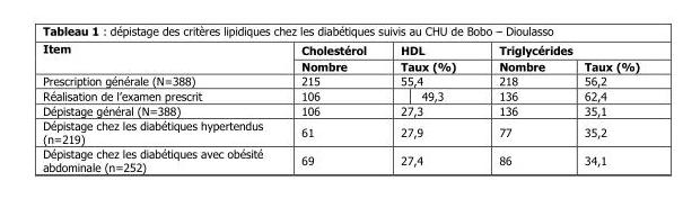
<table><thead><tr><td rowspan="2">Item</td><td rowspan="2">Cholestérol Nombre</td><td rowspan="2">HDL Taux (%)</td><td colspan="2">Triglycérides</td></tr><tr><td>Nombre</td><td>Taux (%)</td></tr></thead><tbody><tr><td>Prescription générale (N=388)</td><td>215</td><td>55,4</td><td>218</td><td>56,2</td></tr><tr><td>Réalisation de l’examen prescrit</td><td>106</td><td>49,3</td><td>136</td><td>62,4</td></tr><tr><td>Dépistage général (N=388)</td><td>106</td><td>27,3</td><td>136</td><td>35,1</td></tr><tr><td>Dépistage chez les diabétiques hypertendus (n=219)</td><td>61</td><td>27,9</td><td>77</td><td>35,2</td></tr><tr><td>Dépistage chez les diabétiques avec obésité abdominale (n=252)</td><td>69</td><td>27,4</td><td>86</td><td>34,1</td></tr></tbody></table>